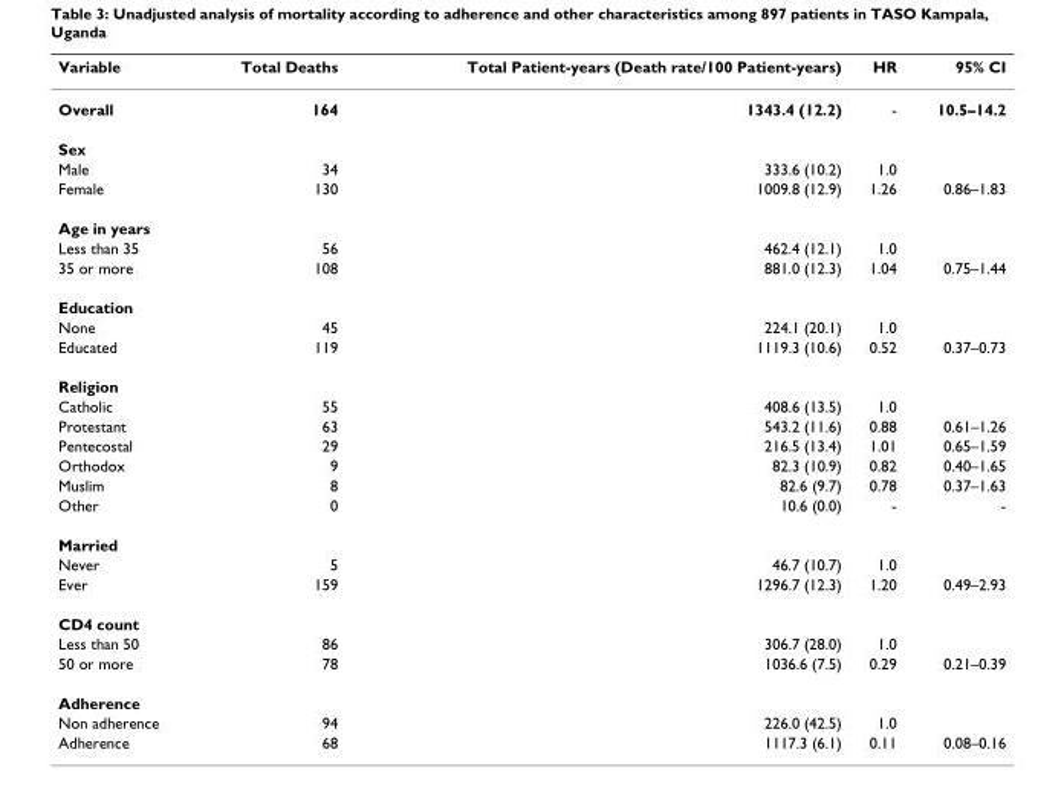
<table><thead><tr><td>Variable</td><td>Total Deaths</td><td>Total Patient-years (Death rate/100 Patient-years)</td><td>HR</td><td>95% CI</td></tr></thead><tbody><tr><td>Overall</td><td>164</td><td>1343.4 (12.2)</td><td>-</td><td>10.5–14.2</td></tr><tr><td colspan="5">Sex</td></tr><tr><td>Male</td><td>34</td><td>333.6 (10.2)</td><td>1.0</td><td></td></tr><tr><td>Female</td><td>130</td><td>1009.8 (12.9)</td><td>1.26</td><td>0.86–1.83</td></tr><tr><td colspan="5">Age in years</td></tr><tr><td>Less than 35</td><td>56</td><td>462.4 (12.1)</td><td>1.0</td><td></td></tr><tr><td>35 or more</td><td>108</td><td>881.0 (12.3)</td><td>1.04</td><td>0.75–1.44</td></tr><tr><td colspan="5">Education</td></tr><tr><td>None</td><td>45</td><td>224.1 (20.1)</td><td>1.0</td><td></td></tr><tr><td>Educated</td><td>119</td><td>1119.3 (10.6)</td><td>0.52</td><td>0.37–0.73</td></tr><tr><td colspan="5">Religion</td></tr><tr><td>Catholic</td><td>55</td><td>408.6 (13.5)</td><td>1.0</td><td></td></tr><tr><td>Protestant</td><td>63</td><td>543.2 (11.6)</td><td>0.88</td><td>0.61–1.26</td></tr><tr><td>Pentecostal</td><td>29</td><td>216.5 (13.4)</td><td>1.01</td><td>0.65–1.59</td></tr><tr><td>Orthodox</td><td>9</td><td>82.3 (10.9)</td><td>0.82</td><td>0.40–1.65</td></tr><tr><td>Muslim</td><td>8</td><td>82.6 (9.7)</td><td>0.78</td><td>0.37–1.63</td></tr><tr><td>Other</td><td>0</td><td>10.6 (0.0)</td><td>-</td><td>-</td></tr><tr><td colspan="5">Married</td></tr><tr><td>Never</td><td>5</td><td>46.7 (10.7)</td><td>1.0</td><td></td></tr><tr><td>Ever</td><td>159</td><td>1296.7 (12.3)</td><td>1.20</td><td>0.49–2.93</td></tr><tr><td colspan="5">CD4 count</td></tr><tr><td>Less than 50</td><td>86</td><td>306.7 (28.0)</td><td>1.0</td><td></td></tr><tr><td>50 or more</td><td>78</td><td>1036.6 (7.5)</td><td>0.29</td><td>0.21–0.39</td></tr><tr><td colspan="5">Adherence</td></tr><tr><td>Non adherence</td><td>94</td><td>226.0 (42.5)</td><td>1.0</td><td></td></tr><tr><td>Adherence</td><td>68</td><td>1117.3 (6.1)</td><td>0.11</td><td>0.08–0.16</td></tr></tbody></table>